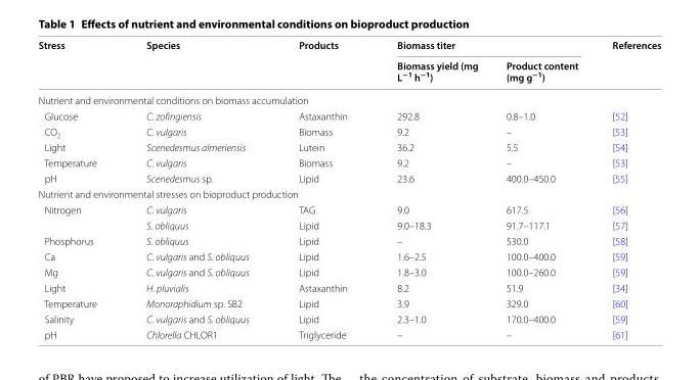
<table><thead><tr><td rowspan="2">Stress</td><td rowspan="2">Species</td><td rowspan="2">Products</td><td colspan="2">Biomass titer</td><td rowspan="2">References</td></tr><tr><td>Biomass yield (mg L<sup>−1</sup> h<sup>−1</sup>)</td><td>Product content (mg g<sup>−1</sup>)</td></tr></thead><tbody><tr><td colspan="6">Nutrient and environmental conditions on biomass accumulation</td></tr><tr><td>Glucose</td><td>C. zofingiensis</td><td>Astaxanthin</td><td>292.8</td><td>0.8–1.0</td><td>[52]</td></tr><tr><td>CO<sub>2</sub></td><td>C. vulgaris</td><td>Biomass</td><td>9.2</td><td>–</td><td>[53]</td></tr><tr><td>Light</td><td>Scenedesmus almeriensis</td><td>Lutein</td><td>36.2</td><td>5.5</td><td>[54]</td></tr><tr><td>Temperature</td><td>C. vulgaris</td><td>Biomass</td><td>9.2</td><td>–</td><td>[53]</td></tr><tr><td>pH</td><td>Scenedesmus sp.</td><td>Lipid</td><td>23.6</td><td>400.0–450.0</td><td>[55]</td></tr><tr><td colspan="6">Nutrient and environmental stresses on bioproduct production</td></tr><tr><td rowspan="2">Nitrogen</td><td>C. vulgaris</td><td>TAG</td><td>9.0</td><td>617.5</td><td>[56]</td></tr><tr><td>S. obliquus</td><td>Lipid</td><td>9.0–18.3</td><td>91.7–117.1</td><td>[57]</td></tr><tr><td>Phosphorus</td><td>S. obliquus</td><td>Lipid</td><td>–</td><td>530.0</td><td>[58]</td></tr><tr><td>Ca</td><td>C. vulgaris and S. obliquus</td><td>Lipid</td><td>1.6–2.5</td><td>100.0–400.0</td><td>[59]</td></tr><tr><td>Mg</td><td>C. vulgaris and S. obliquus</td><td>Lipid</td><td>1.8–3.0</td><td>100.0–260.0</td><td>[59]</td></tr><tr><td>Light</td><td>H. pluvialis</td><td>Astaxanthin</td><td>8.2</td><td>51.9</td><td>[34]</td></tr><tr><td>Temperature</td><td>Monoraphidium sp. SB2</td><td>Lipid</td><td>3.9</td><td>329.0</td><td>[60]</td></tr><tr><td>Salinity</td><td>C. vulgaris and S. obliquus</td><td>Lipid</td><td>2.3–1.0</td><td>170.0–400.0</td><td>[59]</td></tr><tr><td>pH</td><td>Chlorella CHLOR1</td><td>Triglyceride</td><td>–</td><td>–</td><td>[61]</td></tr></tbody></table>